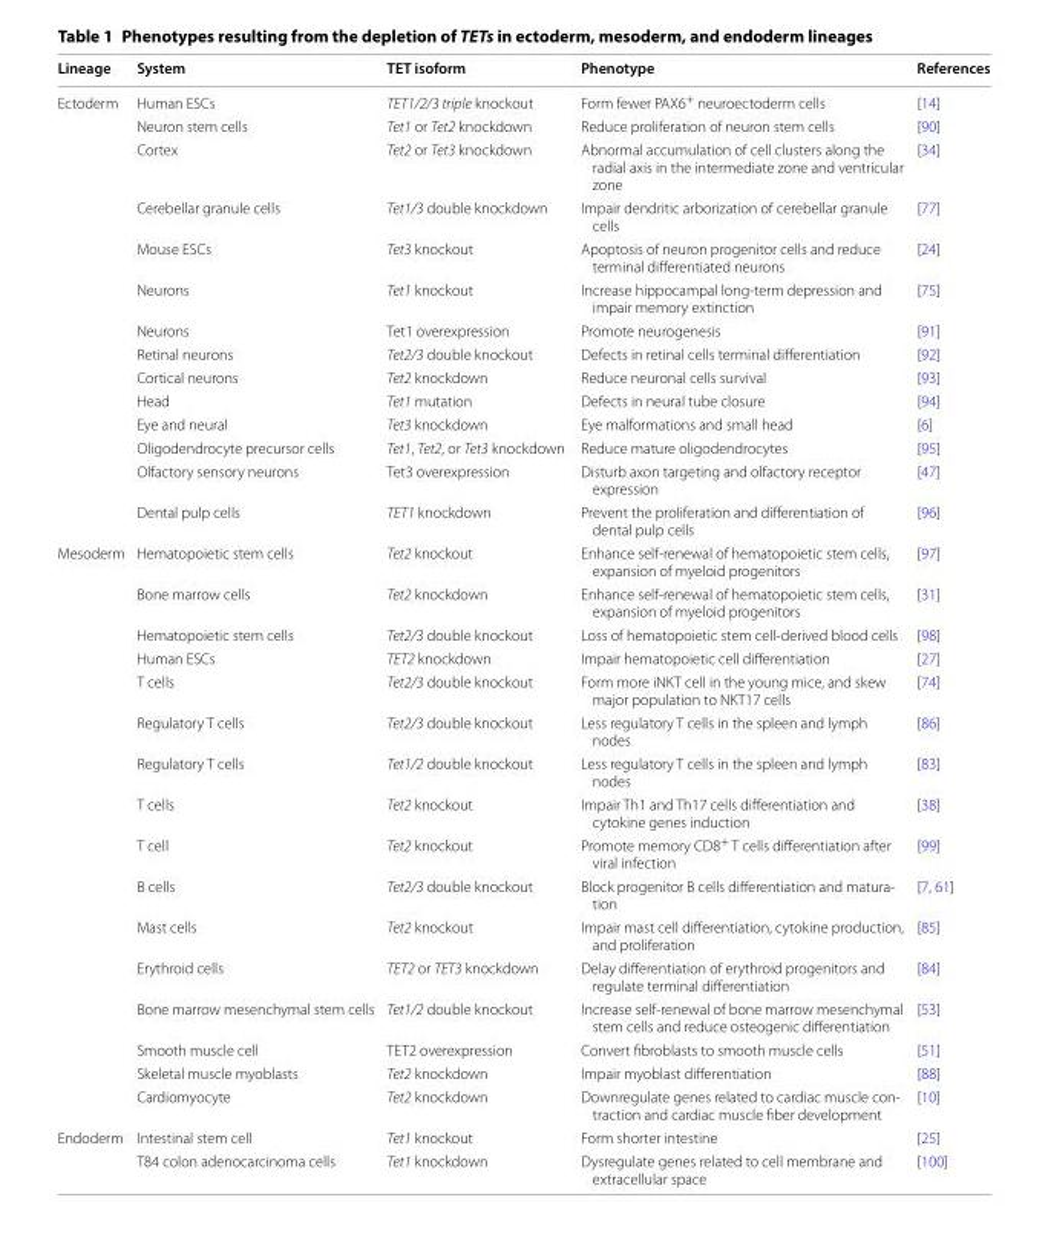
<table><thead><tr><td>Lineage</td><td>System</td><td>TET isoform</td><td>Phenotype</td><td>References</td></tr></thead><tbody><tr><td rowspan="14">Ectoderm</td><td>Human ESCs</td><td>TET1/2/3 triple knockout</td><td>Form fewer PAX6<sup>+</sup> neuroectoderm cells</td><td>[14]</td></tr><tr><td>Neuron stem cells</td><td>Tet1 or Tet2 knockdown</td><td>Reduce proliferation of neuron stem cells</td><td>[90]</td></tr><tr><td>Cortex</td><td>Tet2 or Tet3 knockdown</td><td>Abnormal accumulation of cell clusters along the radial axis in the intermediate zone and ventricular zone</td><td>[34]</td></tr><tr><td>Cerebellar granule cells</td><td>Tet1/3 double knockdown</td><td>Impair dendritic arborization of cerebellar granule cells</td><td>[77]</td></tr><tr><td>Mouse ESCs</td><td>Tet3 knockout</td><td>Apoptosis of neuron progenitor cells and reduce terminal differentiated neurons</td><td>[24]</td></tr><tr><td>Neurons</td><td>Tet1 knockout</td><td>Increase hippocampal long-term depression and impair memory extinction</td><td>[75]</td></tr><tr><td>Neurons</td><td>Tet1 overexpression</td><td>Promote neurogenesis</td><td>[91]</td></tr><tr><td>Retinal neurons</td><td>Tet2/3 double knockout</td><td>Defects in retinal cells terminal differentiation</td><td>[92]</td></tr><tr><td>Cortical neurons</td><td>Tet2 knockdown</td><td>Reduce neuronal cells survival</td><td>[93]</td></tr><tr><td>Head</td><td>Tet1 mutation</td><td>Defects in neural tube closure</td><td>[94]</td></tr><tr><td>Eye and neural</td><td>Tet3 knockdown</td><td>Eye malformations and small head</td><td>[6]</td></tr><tr><td>Oligodendrocyte precursor cells</td><td>Tet1, Tet2, or Tet3 knockdown</td><td>Reduce mature oligodendrocytes</td><td>[95]</td></tr><tr><td>Olfactory sensory neurons</td><td>Tet3 overexpression</td><td>Disturb axon targeting and olfactory receptor expression</td><td>[47]</td></tr><tr><td>Dental pulp cells</td><td>TET1 knockdown</td><td>Prevent the proliferation and differentiation of dental pulp cells</td><td>[96]</td></tr><tr><td rowspan="16">Mesoderm</td><td>Hematopoietic stem cells</td><td>Tet2 knockout</td><td>Enhance self-renewal of hematopoietic stem cells, expansion of myeloid progenitors</td><td>[97]</td></tr><tr><td>Bone marrow cells</td><td>Tet2 knockdown</td><td>Enhance self-renewal of hematopoietic stem cells, expansion of myeloid progenitors</td><td>[31]</td></tr><tr><td>Hematopoietic stem cells</td><td>Tet2/3 double knockout</td><td>Loss of hematopoietic stem cell-derived blood cells</td><td>[98]</td></tr><tr><td>Human ESCs</td><td>TET2 knockdown</td><td>Impair hematopoietic cell differentiation</td><td>[27]</td></tr><tr><td>T cells</td><td>Tet2/3 double knockout</td><td>Form more iNKT cell in the young mice, and skew major population to NKT17 cells</td><td>[74]</td></tr><tr><td>Regulatory T cells</td><td>Tet2/3 double knockout</td><td>Less regulatory T cells in the spleen and lymph nodes</td><td>[86]</td></tr><tr><td>Regulatory T cells</td><td>Tet1/2 double knockout</td><td>Less regulatory T cells in the spleen and lymph nodes</td><td>[83]</td></tr><tr><td>T cells</td><td>Tet2 knockout</td><td>Impair Th1 and Th17 cells differentiation and cytokine genes induction</td><td>[38]</td></tr><tr><td>T cell</td><td>Tet2 knockout</td><td>Promote memory CD8<sup>+</sup> T cells differentiation after viral infection</td><td>[99]</td></tr><tr><td>B cells</td><td>Tet2/3 double knockout</td><td>Block progenitor B cells differentiation and matura- tion</td><td>[7, 61]</td></tr><tr><td>Mast cells</td><td>Tet2 knockout</td><td>Impair mast cell differentiation, cytokine production, and proliferation</td><td>[85]</td></tr><tr><td>Erythroid cells</td><td>TET2 or TET3 knockdown</td><td>Delay differentiation of erythroid progenitors and regulate terminal differentiation</td><td>[84]</td></tr><tr><td>Bone marrow mesenchymal stem cells</td><td>Tet1/2 double knockout</td><td>Increase self-renewal of bone marrow mesenchymal stem cells and reduce osteogenic differentiation</td><td>[53]</td></tr><tr><td>Smooth muscle cell</td><td>TET2 overexpression</td><td>Convert fibroblasts to smooth muscle cells</td><td>[51]</td></tr><tr><td>Skeletal muscle myoblasts</td><td>Tet2 knockdown</td><td>Impair myoblast differentiation</td><td>[88]</td></tr><tr><td>Cardiomyocyte</td><td>Tet2 knockdown</td><td>Downregulate genes related to cardiac muscle con- traction and cardiac muscle fiber development</td><td>[10]</td></tr><tr><td rowspan="2">Endoderm</td><td>Intestinal stem cell</td><td>Tet1 knockout</td><td>Form shorter intestine</td><td>[25]</td></tr><tr><td>T84 colon adenocarcinoma cells</td><td>Tet1 knockdown</td><td>Dysregulate genes related to cell membrane and extracellular space</td><td>[100]</td></tr></tbody></table>